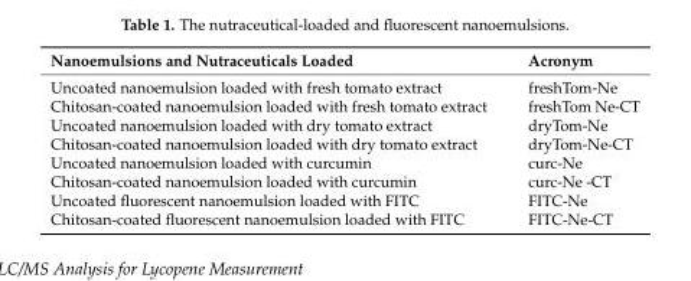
<table><thead><tr><td>Nanoemulsions and Nutraceuticals Loaded</td><td>Acronym</td></tr></thead><tbody><tr><td>Uncoated nanoemulsion loaded with fresh tomato extract</td><td>freshTom-Ne</td></tr><tr><td>Chitosan-coated nanoemulsion loaded with fresh tomato extract</td><td>freshTom Ne-CT</td></tr><tr><td>Uncoated nanoemulsion loaded with dry tomato extract</td><td>dryTom-Ne</td></tr><tr><td>Chitosan-coated nanoemulsion loaded with dry tomato extract</td><td>dryTom-Ne-CT</td></tr><tr><td>Uncoated nanoemulsion loaded with curcumin</td><td>curc-Ne</td></tr><tr><td>Chitosan-coated nanoemulsion loaded with curcumin</td><td>curc-Ne -CT</td></tr><tr><td>Uncoated fluorescent nanoemulsion loaded with FITC</td><td>FITC-Ne</td></tr><tr><td>Chitosan-coated fluorescent nanoemulsion loaded with FITC</td><td>FITC-Ne-CT</td></tr></tbody></table>